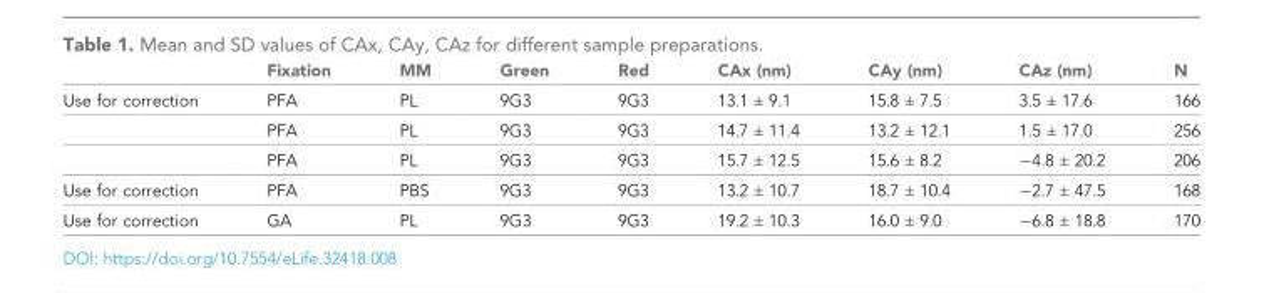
<table><thead><tr><td></td><td>Fixation</td><td>MM</td><td>Green</td><td>Red</td><td>CAx (nm)</td><td>CAy (nm)</td><td>CAz (nm)</td><td>N</td></tr></thead><tbody><tr><td rowspan="3">Use for correction</td><td>PFA</td><td>PL</td><td>9G3</td><td>9G3</td><td>13.1 ± 9.1</td><td>15.8 ± 7.5</td><td>3.5 ± 17.6</td><td>166</td></tr><tr><td>PFA</td><td>PL</td><td>9G3</td><td>9G3</td><td>14.7 ± 11.4</td><td>13.2 ± 12.1</td><td>1.5 ± 17.0</td><td>256</td></tr><tr><td>PFA</td><td>PL</td><td>9G3</td><td>9G3</td><td>15.7 ± 12.5</td><td>15.6 ± 8.2</td><td>−4.8 ± 20.2</td><td>206</td></tr><tr><td>Use for correction</td><td>PFA</td><td>PBS</td><td>9G3</td><td>9G3</td><td>13.2 ± 10.7</td><td>18.7 ± 10.4</td><td>−2.7 ± 47.5</td><td>168</td></tr><tr><td>Use for correction</td><td>GA</td><td>PL</td><td>9G3</td><td>9G3</td><td>19.2 ± 10.3</td><td>16.0 ± 9.0</td><td>−6.8 ± 18.8</td><td>170</td></tr></tbody></table>